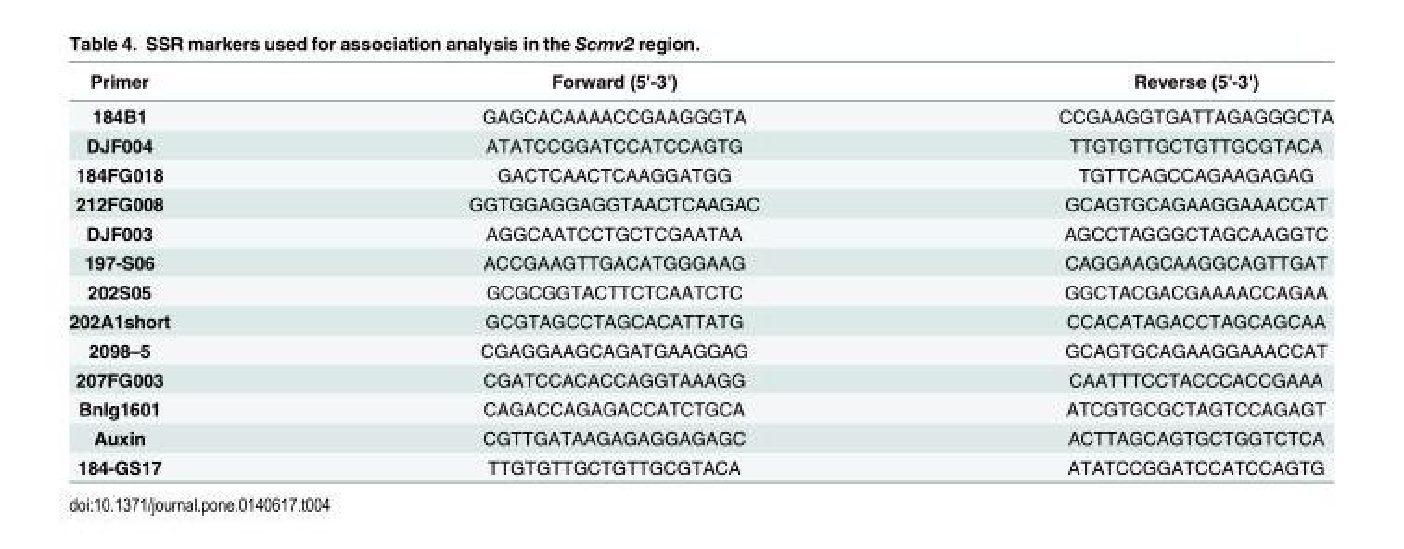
<table><thead><tr><td>Primer</td><td>Forward (5&#x27;-3&#x27;)</td><td>Reverse (5&#x27;-3&#x27;)</td></tr></thead><tbody><tr><td>184B1</td><td>GAGCACAAAACCGAAGGGTA</td><td>CCGAAGGTGATTAGAGGGCTA</td></tr><tr><td>DJF004</td><td>ATATCCGGATCCATCCAGTG</td><td>TTGTGTTGCTGTTGCGTACA</td></tr><tr><td>184FG018</td><td>GACTCAACTCAAGGATGG</td><td>TGTTCAGCCAGAAGAGAG</td></tr><tr><td>212FG008</td><td>GGTGGAGGAGGTAACTCAAGAC</td><td>GCAGTGCAGAAGGAAACCAT</td></tr><tr><td>DJF003</td><td>AGGCAATCCTGCTCGAATAA</td><td>AGCCTAGGGCTAGCAAGGTC</td></tr><tr><td>197-S06</td><td>ACCGAAGTTGACATGGGAAG</td><td>CAGGAAGCAAGGCAGTTGAT</td></tr><tr><td>202S05</td><td>GCGCGGTACTTCTCAATCTC</td><td>GGCTACGACGAAAACCAGAA</td></tr><tr><td>202A1short</td><td>GCGTAGCCTAGCACATTATG</td><td>CCACATAGACCTAGCAGCAA</td></tr><tr><td>2098–5</td><td>CGAGGAAGCAGATGAAGGAG</td><td>GCAGTGCAGAAGGAAACCAT</td></tr><tr><td>207FG003</td><td>CGATCCACACCAGGTAAAGG</td><td>CAATTTCCTACCCACCGAAA</td></tr><tr><td>Bnlg1601</td><td>CAGACCAGAGACCATCTGCA</td><td>ATCGTGCGCTAGTCCAGAGT</td></tr><tr><td>Auxin</td><td>CGTTGATAAGAGAGGAGAGC</td><td>ACTTAGCAGTGCTGGTCTCA</td></tr><tr><td>184-GS17</td><td>TTGTGTTGCTGTTGCGTACA</td><td>ATATCCGGATCCATCCAGTG</td></tr></tbody></table>